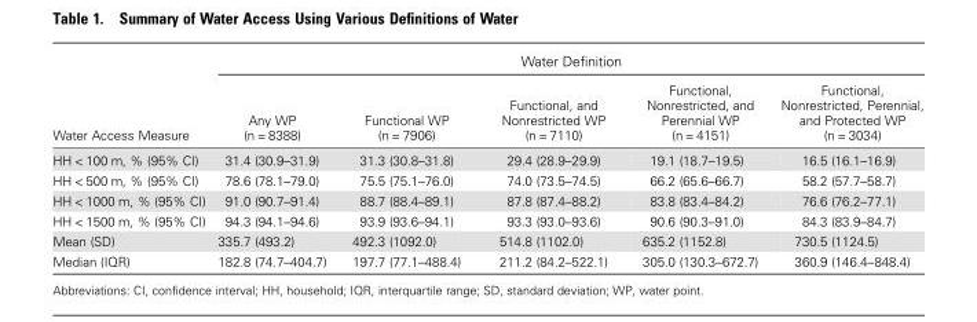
<table><thead><tr><td rowspan="2">Water Access Measure</td><td colspan="5">Water Definition</td></tr><tr><td>Any WP (n = 8388)</td><td>Functional WP (n = 7906)</td><td>Functional, and Nonrestricted WP (n = 7110)</td><td>Functional, Nonrestricted, and Perennial WP (n = 4151)</td><td>Functional, Nonrestricted, Perennial, and Protected WP (n = 3034)</td></tr></thead><tbody><tr><td>HH &lt; 100 m, % (95% CI)</td><td>31.4 (30.9–31.9)</td><td>31.3 (30.8–31.8)</td><td>29.4 (28.9–29.9)</td><td>19.1 (18.7–19.5)</td><td>16.5 (16.1–16.9)</td></tr><tr><td>HH &lt; 500 m, % (95% CI)</td><td>78.6 (78.1–79.0)</td><td>75.5 (75.1–76.0)</td><td>74.0 (73.5–74.5)</td><td>66.2 (65.6–66.7)</td><td>58.2 (57.7–58.7)</td></tr><tr><td>HH &lt; 1000 m, % (95% CI)</td><td>91.0 (90.7–91.4)</td><td>88.7 (88.4–89.1)</td><td>87.8 (87.4–88.2)</td><td>83.8 (83.4–84.2)</td><td>76.6 (76.2–77.1)</td></tr><tr><td>HH &lt; 1500 m, % (95% CI)</td><td>94.3 (94.1–94.6)</td><td>93.9 (93.6–94.1)</td><td>93.3 (93.0–93.6)</td><td>90.6 (90.3–91.0)</td><td>84.3 (83.9–84.7)</td></tr><tr><td>Mean (SD)</td><td>335.7 (493.2)</td><td>492.3 (1092.0)</td><td>514.8 (1102.0)</td><td>635.2 (1152.8)</td><td>730.5 (1124.5)</td></tr><tr><td>Median (IQR)</td><td>182.8 (74.7–404.7)</td><td>197.7 (77.1–488.4)</td><td>211.2 (84.2–522.1)</td><td>305.0 (130.3–672.7)</td><td>360.9 (146.4–848.4)</td></tr></tbody></table>